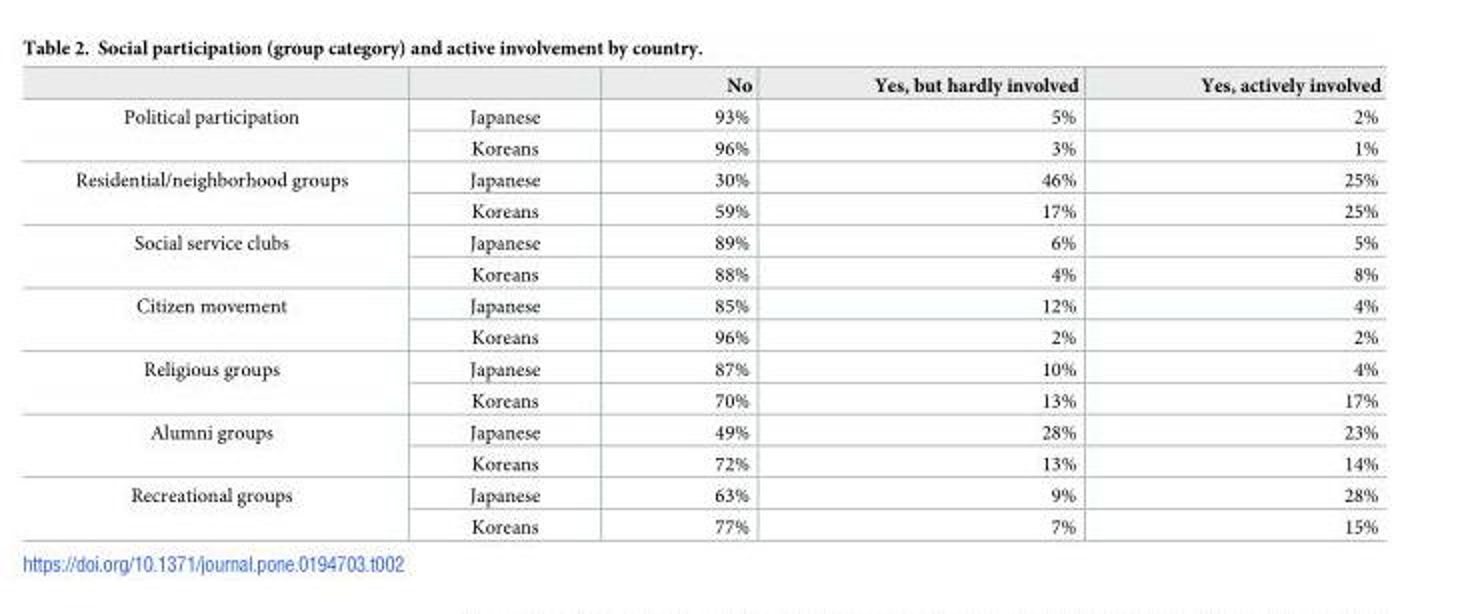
<table><thead><tr><td></td><td></td><td>No</td><td>Yes, but hardly involved</td><td>Yes, actively involved</td></tr></thead><tbody><tr><td rowspan="2">Political participation</td><td>Japanese</td><td>93%</td><td>5%</td><td>2%</td></tr><tr><td>Koreans</td><td>96%</td><td>3%</td><td>1%</td></tr><tr><td rowspan="2">Residential/neighborhood groups</td><td>Japanese</td><td>30%</td><td>46%</td><td>25%</td></tr><tr><td>Koreans</td><td>59%</td><td>17%</td><td>25%</td></tr><tr><td rowspan="2">Social service clubs</td><td>Japanese</td><td>89%</td><td>6%</td><td>5%</td></tr><tr><td>Koreans</td><td>88%</td><td>4%</td><td>8%</td></tr><tr><td rowspan="2">Citizen movement</td><td>Japanese</td><td>85%</td><td>12%</td><td>4%</td></tr><tr><td>Koreans</td><td>96%</td><td>2%</td><td>2%</td></tr><tr><td rowspan="2">Religious groups</td><td>Japanese</td><td>87%</td><td>10%</td><td>4%</td></tr><tr><td>Koreans</td><td>70%</td><td>13%</td><td>17%</td></tr><tr><td rowspan="2">Alumni groups</td><td>Japanese</td><td>49%</td><td>28%</td><td>23%</td></tr><tr><td>Koreans</td><td>72%</td><td>13%</td><td>14%</td></tr><tr><td rowspan="2">Recreational groups</td><td>Japanese</td><td>63%</td><td>9%</td><td>28%</td></tr><tr><td>Koreans</td><td>77%</td><td>7%</td><td>15%</td></tr></tbody></table>